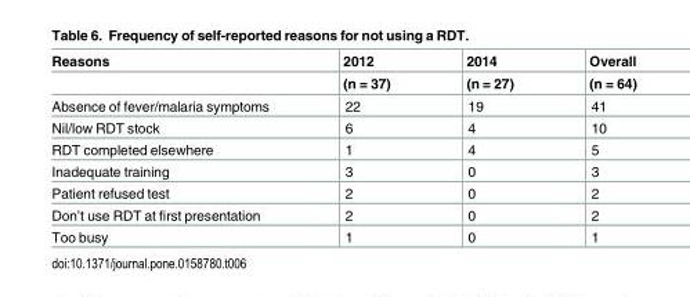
<table><thead><tr><td rowspan="2">Reasons</td><td rowspan="2">2012 (n = 37)</td><td rowspan="2">2014 (n = 27)</td><td rowspan="2">Overall (n = 64)</td></tr><tr></tr></thead><tbody><tr><td>Absence of fever/malaria symptoms</td><td>22</td><td>19</td><td>41</td></tr><tr><td>Nil/low RDT stock</td><td>6</td><td>4</td><td>10</td></tr><tr><td>RDT completed elsewhere</td><td>1</td><td>4</td><td>5</td></tr><tr><td>Inadequate training</td><td>3</td><td>0</td><td>3</td></tr><tr><td>Patient refused test</td><td>2</td><td>0</td><td>2</td></tr><tr><td>Don’t use RDT at first presentation</td><td>2</td><td>0</td><td>2</td></tr><tr><td>Too busy</td><td>1</td><td>0</td><td>1</td></tr></tbody></table>